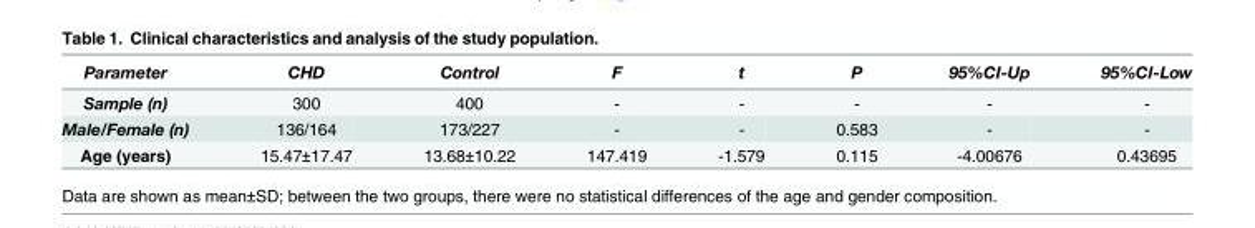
<table><thead><tr><td>Parameter</td><td>CHD</td><td>Control</td><td>F</td><td>t</td><td>P</td><td>95%CI-Up</td><td>95%CI-Low</td></tr></thead><tbody><tr><td>Sample (n)</td><td>300</td><td>400</td><td>-</td><td>-</td><td>-</td><td>-</td><td>-</td></tr><tr><td>Male/Female (n)</td><td>136/164</td><td>173/227</td><td>-</td><td>-</td><td>0.583</td><td>-</td><td>-</td></tr><tr><td>Age (years)</td><td>15.47±17.47</td><td>13.68±10.22</td><td>147.419</td><td>-1.579</td><td>0.115</td><td>-4.00676</td><td>0.43695</td></tr></tbody></table>